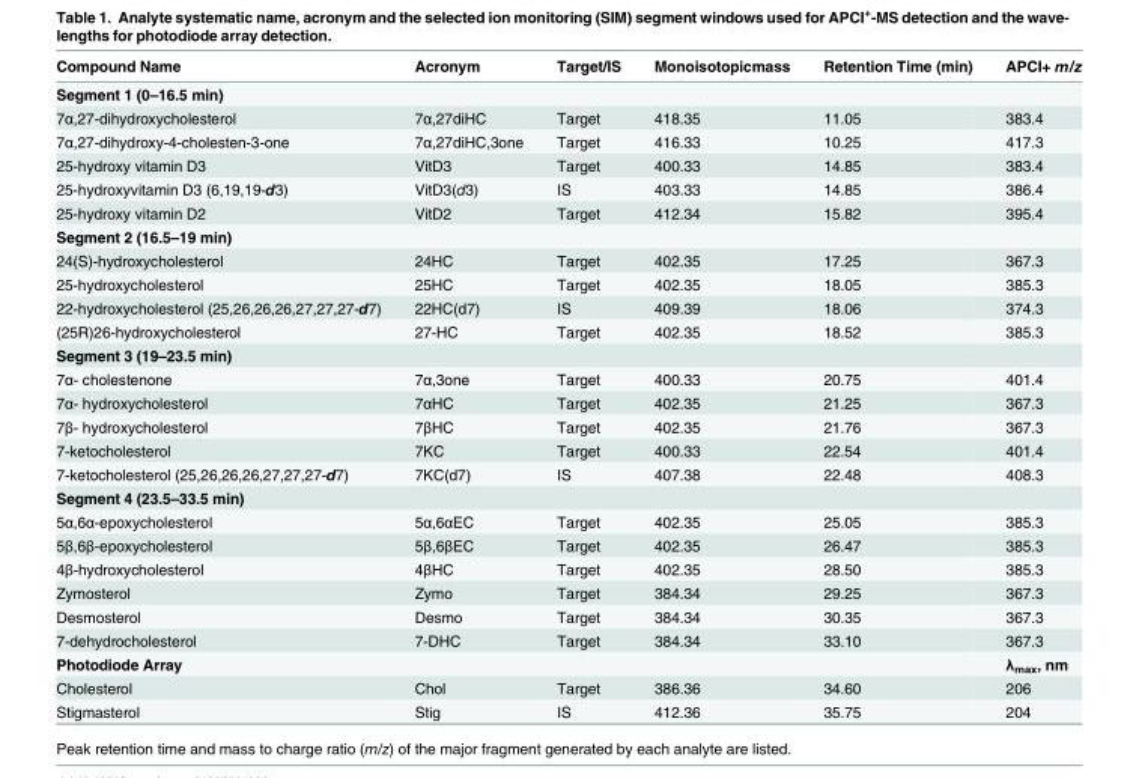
<table><thead><tr><td>Compound Name</td><td>Acronym</td><td>Target/IS</td><td>Monoisotopicmass</td><td>Retention Time (min)</td><td>APCI+ m/z</td></tr></thead><tbody><tr><td colspan="6">Segment 1 (0–16.5 min)</td></tr><tr><td>7α,27-dihydroxycholesterol</td><td>7α,27diHC</td><td>Target</td><td>418.35</td><td>11.05</td><td>383.4</td></tr><tr><td>7α,27-dihydroxy-4-cholesten-3-one</td><td>7α,27diHC,3one</td><td>Target</td><td>416.33</td><td>10.25</td><td>417.3</td></tr><tr><td>25-hydroxy vitamin D3</td><td>VitD3</td><td>Target</td><td>400.33</td><td>14.85</td><td>383.4</td></tr><tr><td>25-hydroxyvitamin D3 (6,19,19-d3)</td><td>VitD3(d3)</td><td>IS</td><td>403.33</td><td>14.85</td><td>386.4</td></tr><tr><td>25-hydroxy vitamin D2</td><td>VitD2</td><td>Target</td><td>412.34</td><td>15.82</td><td>395.4</td></tr><tr><td colspan="6">Segment 2 (16.5–19 min)</td></tr><tr><td>24(S)-hydroxycholesterol</td><td>24HC</td><td>Target</td><td>402.35</td><td>17.25</td><td>367.3</td></tr><tr><td>25-hydroxycholesterol</td><td>25HC</td><td>Target</td><td>402.35</td><td>18.05</td><td>385.3</td></tr><tr><td>22-hydroxycholesterol (25,26,26,26,27,27,27-d7)</td><td>22HC(d7)</td><td>IS</td><td>409.39</td><td>18.06</td><td>374.3</td></tr><tr><td>(25R)26-hydroxycholesterol</td><td>27-HC</td><td>Target</td><td>402.35</td><td>18.52</td><td>385.3</td></tr><tr><td colspan="6">Segment 3 (19–23.5 min)</td></tr><tr><td>7α- cholestenone</td><td>7α,3one</td><td>Target</td><td>400.33</td><td>20.75</td><td>401.4</td></tr><tr><td>7α- hydroxycholesterol</td><td>7αHC</td><td>Target</td><td>402.35</td><td>21.25</td><td>367.3</td></tr><tr><td>7β- hydroxycholesterol</td><td>7βHC</td><td>Target</td><td>402.35</td><td>21.76</td><td>367.3</td></tr><tr><td>7-ketocholesterol</td><td>7KC</td><td>Target</td><td>400.33</td><td>22.54</td><td>401.4</td></tr><tr><td>7-ketocholesterol (25,26,26,26,27,27,27-d7)</td><td>7KC(d7)</td><td>IS</td><td>407.38</td><td>22.48</td><td>408.3</td></tr><tr><td colspan="6">Segment 4 (23.5–33.5 min)</td></tr><tr><td>5α,6α-epoxycholesterol</td><td>5α,6αEC</td><td>Target</td><td>402.35</td><td>25.05</td><td>385.3</td></tr><tr><td>5β,6β-epoxycholesterol</td><td>5β,6βEC</td><td>Target</td><td>402.35</td><td>26.47</td><td>385.3</td></tr><tr><td>4β-hydroxycholesterol</td><td>4βHC</td><td>Target</td><td>402.35</td><td>28.50</td><td>385.3</td></tr><tr><td>Zymosterol</td><td>Zymo</td><td>Target</td><td>384.34</td><td>29.25</td><td>367.3</td></tr><tr><td>Desmosterol</td><td>Desmo</td><td>Target</td><td>384.34</td><td>30.35</td><td>367.3</td></tr><tr><td>7-dehydrocholesterol</td><td>7-DHC</td><td>Target</td><td>384.34</td><td>33.10</td><td>367.3</td></tr><tr><td>Photodiode Array</td><td></td><td></td><td></td><td></td><td>λ<sub>max</sub>, nm</td></tr><tr><td>Cholesterol</td><td>Chol</td><td>Target</td><td>386.36</td><td>34.60</td><td>206</td></tr><tr><td>Stigmasterol</td><td>Stig</td><td>IS</td><td>412.36</td><td>35.75</td><td>204</td></tr></tbody></table>